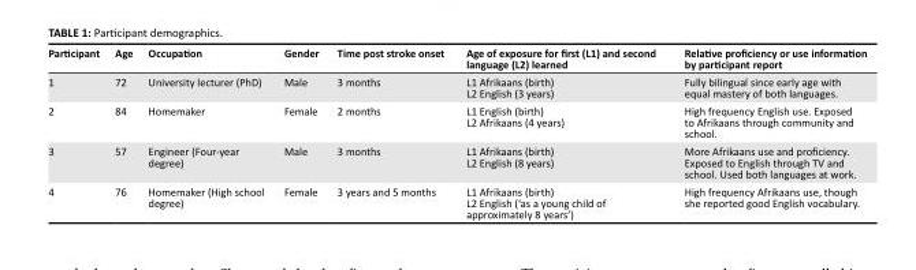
<table><thead><tr><td>Participant</td><td>Age</td><td>Occupation</td><td>Gender</td><td>Time post stroke onset</td><td>Age of exposure for first (L1) and second language (L2) learned</td><td>Relative proficiency or use information by participant report</td></tr></thead><tbody><tr><td>1</td><td>72</td><td>University lecturer (PhD)</td><td>Male</td><td>3 months</td><td>L1 Afrikaans (birth) L2 English (3 years)</td><td>Fully bilingual since early age with equal mastery of both languages.</td></tr><tr><td>2</td><td>84</td><td>Homemaker</td><td>Female</td><td>2 months</td><td>L1 English (birth) L2 Afrikaans (4 years)</td><td>High frequency English use. Exposed to Afrikaans through community and school.</td></tr><tr><td>3</td><td>57</td><td>Engineer (Four-year degree)</td><td>Male</td><td>3 months</td><td>L1 Afrikaans (birth) L2 English (8 years)</td><td>More Afrikaans use and proficiency. Exposed to English through TV and school. Used both languages at work.</td></tr><tr><td>4</td><td>76</td><td>Homemaker (High school degree)</td><td>Female</td><td>3 years and 5 months</td><td>L1 Afrikaans (birth) L2 English (‘as a young child of approximately 8 years’)</td><td>High frequency Afrikaans use, though she reported good English vocabulary.</td></tr></tbody></table>